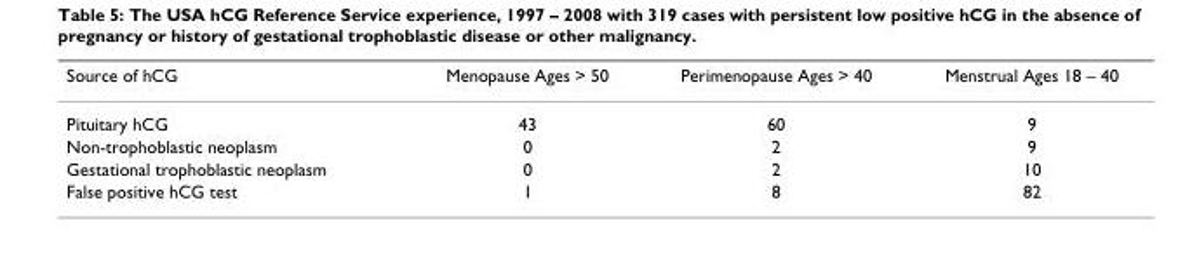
<table><thead><tr><td>Source of hCG</td><td>Menopause Ages &gt; 50</td><td>Perimenopause Ages &gt; 40</td><td>Menstrual Ages 18 – 40</td></tr></thead><tbody><tr><td>Pituitary hCG</td><td>43</td><td>60</td><td>9</td></tr><tr><td>Non-trophoblastic neoplasm</td><td>0</td><td>2</td><td>9</td></tr><tr><td>Gestational trophoblastic neoplasm</td><td>0</td><td>2</td><td>10</td></tr><tr><td>False positive hCG test</td><td>1</td><td>8</td><td>82</td></tr></tbody></table>